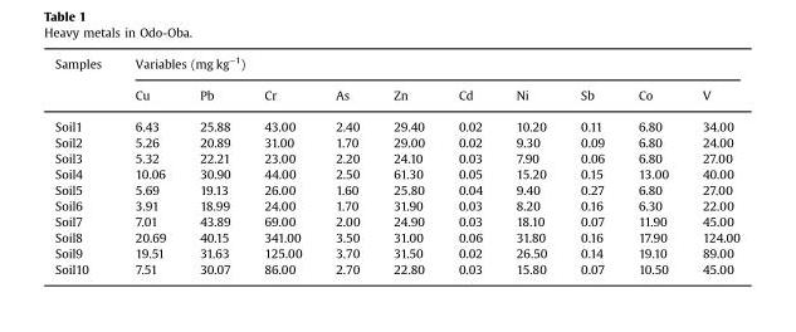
<table><thead><tr><td rowspan="2">Samples</td><td colspan="10">Variables (mg kg<sup>−1</sup>)</td></tr><tr><td>Cu</td><td>Pb</td><td>Cr</td><td>As</td><td>Zn</td><td>Cd</td><td>Ni</td><td>Sb</td><td>Co</td><td>V</td></tr></thead><tbody><tr><td>Soil1</td><td>6.43</td><td>25.88</td><td>43.00</td><td>2.40</td><td>29.40</td><td>0.02</td><td>10.20</td><td>0.11</td><td>6.80</td><td>34.00</td></tr><tr><td>Soil2</td><td>5.26</td><td>20.89</td><td>31.00</td><td>1.70</td><td>29.00</td><td>0.02</td><td>9.30</td><td>0.09</td><td>6.80</td><td>24.00</td></tr><tr><td>Soil3</td><td>5.32</td><td>22.21</td><td>23.00</td><td>2.20</td><td>24.10</td><td>0.03</td><td>7.90</td><td>0.06</td><td>6.80</td><td>27.00</td></tr><tr><td>Soil4</td><td>10.06</td><td>30.90</td><td>44.00</td><td>2.50</td><td>61.30</td><td>0.05</td><td>15.20</td><td>0.15</td><td>13.00</td><td>40.00</td></tr><tr><td>Soil5</td><td>5.69</td><td>19.13</td><td>26.00</td><td>1.60</td><td>25.80</td><td>0.04</td><td>9.40</td><td>0.27</td><td>6.80</td><td>27.00</td></tr><tr><td>Soil6</td><td>3.91</td><td>18.99</td><td>24.00</td><td>1.70</td><td>31.90</td><td>0.03</td><td>8.20</td><td>0.16</td><td>6.30</td><td>22.00</td></tr><tr><td>Soil7</td><td>7.01</td><td>43.89</td><td>69.00</td><td>2.00</td><td>24.90</td><td>0.03</td><td>18.10</td><td>0.07</td><td>11.90</td><td>45.00</td></tr><tr><td>Soil8</td><td>20.69</td><td>40.15</td><td>341.00</td><td>3.50</td><td>31.00</td><td>0.06</td><td>31.80</td><td>0.16</td><td>17.90</td><td>124.00</td></tr><tr><td>Soil9</td><td>19.51</td><td>31.63</td><td>125.00</td><td>3.70</td><td>31.50</td><td>0.02</td><td>26.50</td><td>0.14</td><td>19.10</td><td>89.00</td></tr><tr><td>Soil10</td><td>7.51</td><td>30.07</td><td>86.00</td><td>2.70</td><td>22.80</td><td>0.03</td><td>15.80</td><td>0.07</td><td>10.50</td><td>45.00</td></tr></tbody></table>